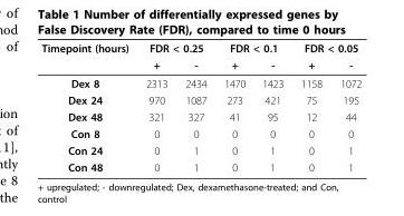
<table><thead><tr><td rowspan="2">Timepoint (hours)</td><td colspan="2">FDR &lt; 0.25</td><td colspan="2">FDR &lt; 0.1</td><td colspan="2">FDR &lt; 0.05</td></tr><tr><td>+</td><td>-</td><td>+</td><td>-</td><td>+</td><td>-</td></tr></thead><tbody><tr><td>Dex 8</td><td>2313</td><td>2434</td><td>1470</td><td>1423</td><td>1158</td><td>1072</td></tr><tr><td>Dex 24</td><td>970</td><td>1087</td><td>273</td><td>421</td><td>75</td><td>195</td></tr><tr><td>Dex 48</td><td>321</td><td>327</td><td>41</td><td>95</td><td>12</td><td>44</td></tr><tr><td>Con 8</td><td>0</td><td>0</td><td>0</td><td>0</td><td>0</td><td>0</td></tr><tr><td>Con 24</td><td>0</td><td>1</td><td>0</td><td>1</td><td>0</td><td>1</td></tr><tr><td>Con 48</td><td>0</td><td>1</td><td>0</td><td>1</td><td>0</td><td>1</td></tr></tbody></table>